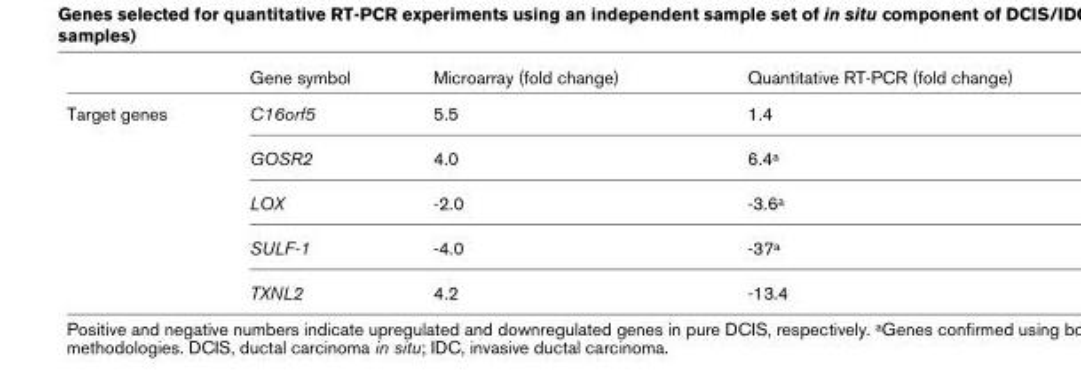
<table><thead><tr><td></td><td>Gene symbol</td><td>Microarray (fold change)</td><td>Quantitative RT-PCR (fold change)</td></tr></thead><tbody><tr><td rowspan="5">Target genes</td><td>C16orf5</td><td>5.5</td><td>1.4</td></tr><tr><td>GOSR2</td><td>4.0</td><td>6.4<sup>a</sup></td></tr><tr><td>LOX</td><td>-2.0</td><td>-3.6<sup>a</sup></td></tr><tr><td>SULF-1</td><td>-4.0</td><td>-37<sup>a</sup></td></tr><tr><td>TXNL2</td><td>4.2</td><td>-13.4</td></tr></tbody></table>